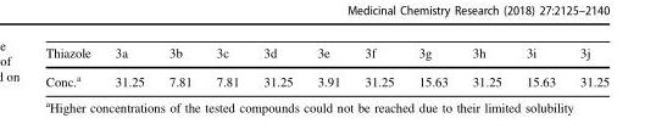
<table><thead><tr><td>Thiazole</td><td>3a</td><td>3b</td><td>3c</td><td>3d</td><td>3e</td><td>3f</td><td>3g</td><td>3h</td><td>3i</td><td>3j</td></tr></thead><tbody><tr><td>Conc.<sup>a</sup></td><td>31.25</td><td>7.81</td><td>7.81</td><td>31.25</td><td>3.91</td><td>31.25</td><td>15.63</td><td>31.25</td><td>15.63</td><td>31.25</td></tr></tbody></table>